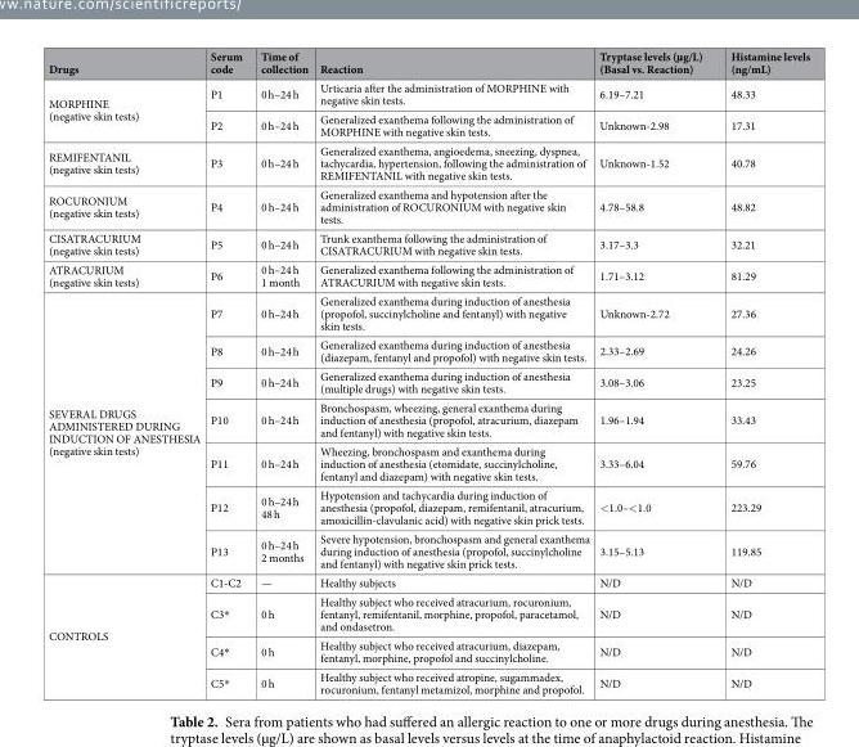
<table><thead><tr><td>Drugs</td><td>Serum code</td><td>Time of collection</td><td>Reaction</td><td>Tryptase levels (µg/L) (Basal vs. Reaction)</td><td>Histamine levels (ng/mL)</td></tr></thead><tbody><tr><td rowspan="2">MORPHINE (negative skin tests)</td><td>P1</td><td>0 h–24 h</td><td>Urticaria after the administration of MORPHINE with negative skin tests.</td><td>6.19–7.21</td><td>48.33</td></tr><tr><td>P2</td><td>0 h–24 h</td><td>Generalized exanthema following the administration of MORPHINE with negative skin tests.</td><td>Unknown-2.98</td><td>17.31</td></tr><tr><td>REMIFENTANIL (negative skin tests)</td><td>P3</td><td>0 h–24 h</td><td>Generalized exanthema, angioedema, sneezing, dyspnea, tachycardia, hypertension, following the administration of REMIFENTANIL with negative skin tests.</td><td>Unknown-1.52</td><td>40.78</td></tr><tr><td>ROCURONIUM (negative skin tests)</td><td>P4</td><td>0 h–24 h</td><td>Generalized exanthema and hypotension after the administration of ROCURONIUM with negative skin tests.</td><td>4.78–58.8</td><td>48.82</td></tr><tr><td>CISATRACURIUM (negative skin tests)</td><td>P5</td><td>0 h–24 h</td><td>Trunk exanthema following the administration of CISATRACURIUM with negative skin tests.</td><td>3.17–3.3</td><td>32.21</td></tr><tr><td>ATRACURIUM (negative skin tests)</td><td>P6</td><td>0 h–24 h 1 month</td><td>Generalized exanthema following the administration of ATRACURIUM with negative skin tests.</td><td>1.71–3.12</td><td>81.29</td></tr><tr><td rowspan="7">SEVERAL DRUGS ADMINISTERED DURING INDUCTION OF ANESTHESIA (negative skin tests)</td><td>P7</td><td>0 h–24 h</td><td>Generalized exanthema during induction of anesthesia (propofol, succinylcholine and fentanyl) with negative skin tests.</td><td>Unknown-2.72</td><td>27.36</td></tr><tr><td>P8</td><td>0 h–24 h</td><td>Generalized exanthema during induction of anesthesia (diazepam, fentanyl and propofol) with negative skin tests.</td><td>2.33–2.69</td><td>24.26</td></tr><tr><td>P9</td><td>0 h–24 h</td><td>Generalized exanthema during induction of anesthesia (multiple drugs) with negative skin tests.</td><td>3.08–3.06</td><td>23.25</td></tr><tr><td>P10</td><td>0 h–24 h</td><td>Bronchospasm, wheezing, general exanthema during induction of anesthesia (propofol, atracurium, diazepam and fentanyl) with negative skin tests.</td><td>1.96–1.94</td><td>33.43</td></tr><tr><td>P11</td><td>0 h–24 h</td><td>Wheezing, bronchospasm and exanthema during induction of anesthesia (etomidate, succinylcholine, fentanyl and diazepam) with negative skin tests.</td><td>3.33–6.04</td><td>59.76</td></tr><tr><td>P12</td><td>0 h–24 h 48 h</td><td>Hypotension and tachycardia during induction of anesthesia (propofol, diazepam, remifentanil, atracurium, amoxicillin-clavulanic acid) with negative skin prick tests.</td><td>&lt;1.0–&lt;1.0</td><td>223.29</td></tr><tr><td>P13</td><td>0 h–24 h 2 months</td><td>Severe hypotension, bronchospasm and general exanthema during induction of anesthesia (propofol, succinylcholine and fentanyl) with negative skin prick tests.</td><td>3.15–5.13</td><td>119.85</td></tr><tr><td rowspan="4">CONTROLS</td><td>C1-C2</td><td>—</td><td>Healthy subjects</td><td>N/D</td><td>N/D</td></tr><tr><td>C3*</td><td>0 h</td><td>Healthy subject who received atracurium, rocuronium, fentanyl, remifentanil, morphine, propofol, paracetamol, and ondasetron.</td><td>N/D</td><td>N/D</td></tr><tr><td>C4*</td><td>0 h</td><td>Healthy subject who received atracurium, diazepam, fentanyl, morphine, propofol and succinylcholine.</td><td>N/D</td><td>N/D</td></tr><tr><td>C5*</td><td>0 h</td><td>Healthy subject who received atropine, sugammadex, rocuronium, fentanyl metamizol, morphine and propofol.</td><td>N/D</td><td>N/D</td></tr></tbody></table>